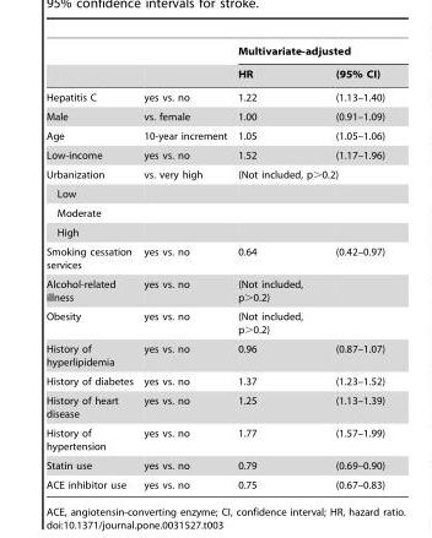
<table><thead><tr><td rowspan="2"></td><td rowspan="2"></td><td colspan="2">Multivariate-adjusted</td></tr><tr><td>HR</td><td>(95% CI)</td></tr></thead><tbody><tr><td>Hepatitis C</td><td>yes vs. no</td><td>1.22</td><td>(1.13–1.40)</td></tr><tr><td>Male</td><td>vs. female</td><td>1.00</td><td>(0.91–1.09)</td></tr><tr><td>Age</td><td>10-year increment</td><td>1.05</td><td>(1.05–1.06)</td></tr><tr><td>Low-income</td><td>yes vs. no</td><td>1.52</td><td>(1.17–1.96)</td></tr><tr><td>Urbanization</td><td>vs. very high</td><td colspan="2">(Not included, p&gt;0.2)</td></tr><tr><td colspan="4">Low</td></tr><tr><td colspan="4">Moderate</td></tr><tr><td colspan="4">High</td></tr><tr><td>Smoking cessation services</td><td>yes vs. no</td><td>0.64</td><td>(0.42–0.97)</td></tr><tr><td>Alcohol-related illness</td><td>yes vs. no</td><td>(Not included, p&gt;0.2)</td><td></td></tr><tr><td>Obesity</td><td>yes vs. no</td><td>(Not included, p&gt;0.2)</td><td></td></tr><tr><td>History of hyperlipidemia</td><td>yes vs. no</td><td>0.96</td><td>(0.87–1.07)</td></tr><tr><td>History of diabetes</td><td>yes vs. no</td><td>1.37</td><td>(1.23–1.52)</td></tr><tr><td>History of heart disease</td><td>yes vs. no</td><td>1.25</td><td>(1.13–1.39)</td></tr><tr><td>History of hypertension</td><td>yes vs. no</td><td>1.77</td><td>(1.57–1.99)</td></tr><tr><td>Statin use</td><td>yes vs. no</td><td>0.79</td><td>(0.69–0.90)</td></tr><tr><td>ACE inhibitor use</td><td>yes vs. no</td><td>0.75</td><td>(0.67–0.83)</td></tr></tbody></table>